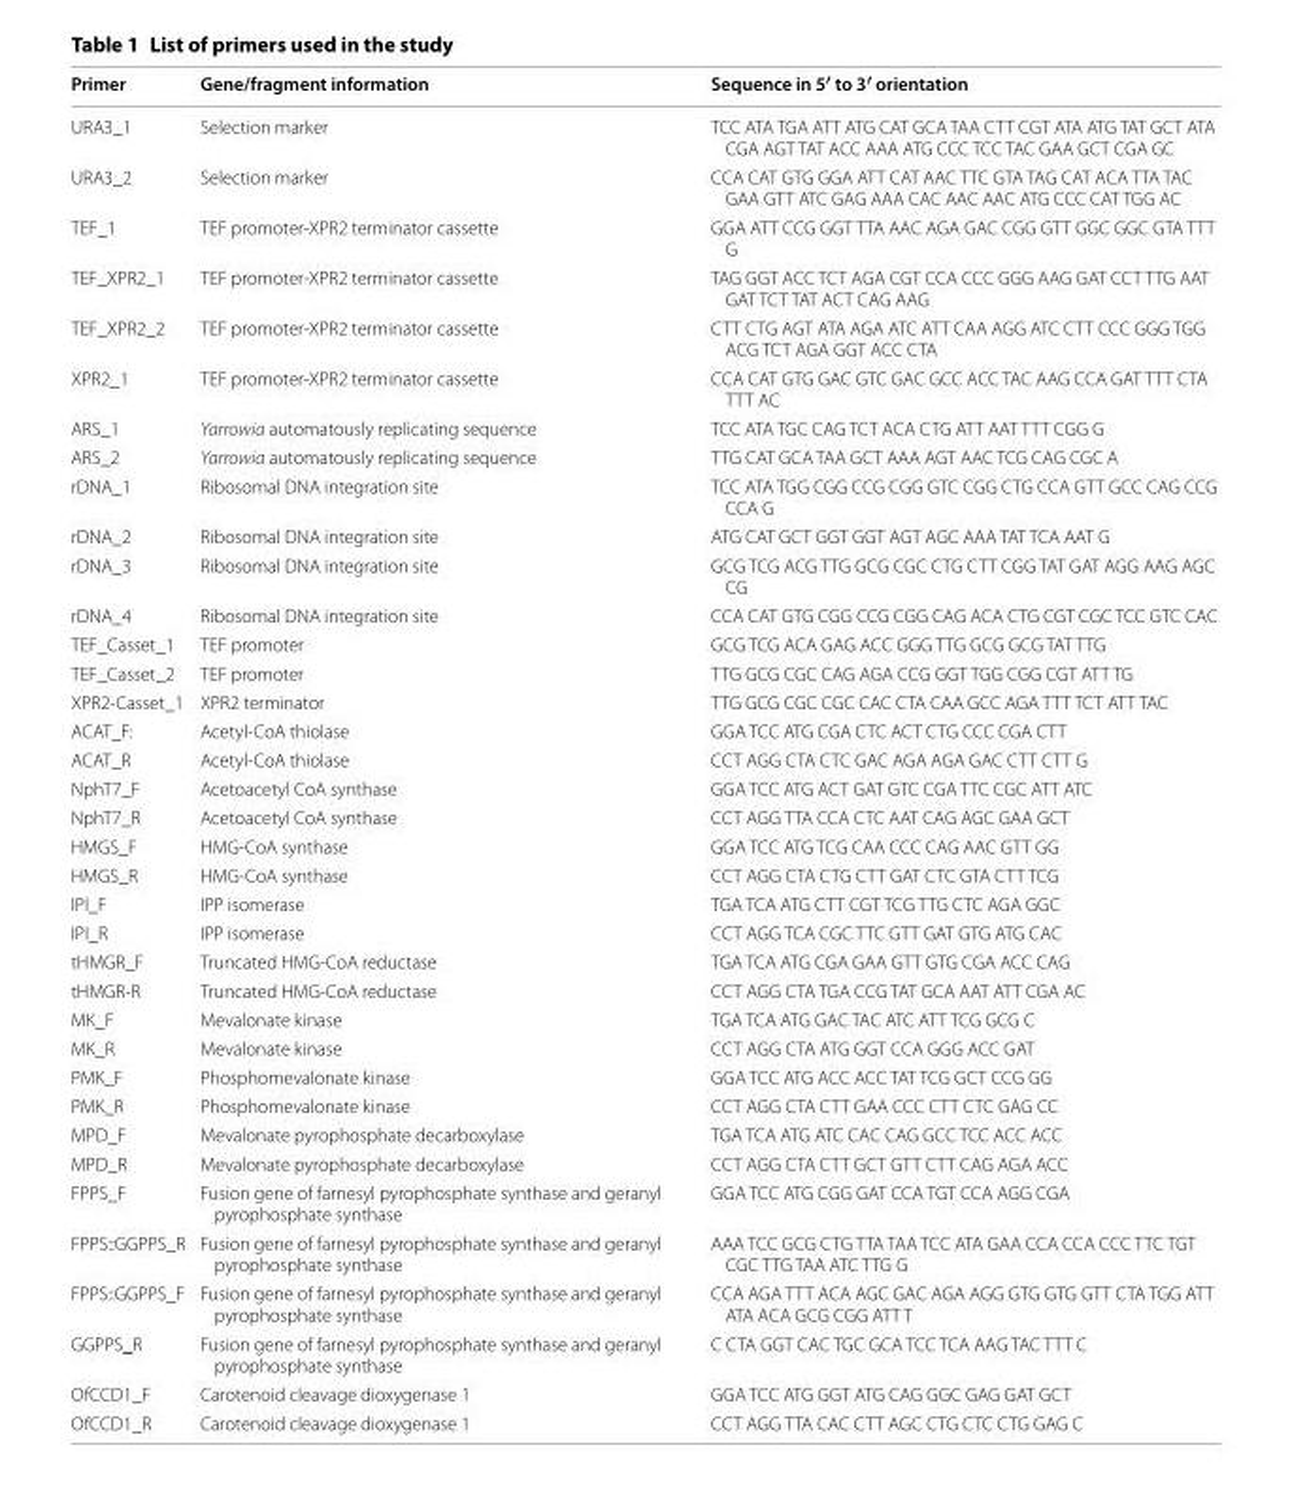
<table><thead><tr><td>Primer</td><td>Gene/fragment information</td><td>Sequence in 5′ to 3′ orientation</td></tr></thead><tbody><tr><td>URA3_1</td><td>Selection marker</td><td>TCC ATA TGA ATT ATG CAT GCA TAA CTT CGT ATA ATG TAT GCT ATA CGA AGT TAT ACC AAA ATG CCC TCC TAC GAA GCT CGA GC</td></tr><tr><td>URA3_2</td><td>Selection marker</td><td>CCA CAT GTG GGA ATT CAT AAC TTC GTA TAG CAT ACA TTA TAC GAA GTT ATC GAG AAA CAC AAC AAC ATG CCC CAT TGG AC</td></tr><tr><td>TEF_1</td><td>TEF promoter-XPR2 terminator cassette</td><td>GGA ATT CCG GGT TTA AAC AGA GAC CGG GTT GGC GGC GTA TTT G</td></tr><tr><td>TEF_XPR2_1</td><td>TEF promoter-XPR2 terminator cassette</td><td>TAG GGT ACC TCT AGA CGT CCA CCC GGG AAG GAT CCT TTG AAT GAT TCT TAT ACT CAG AAG</td></tr><tr><td>TEF_XPR2_2</td><td>TEF promoter-XPR2 terminator cassette</td><td>CTT CTG AGT ATA AGA ATC ATT CAA AGG ATC CTT CCC GGG TGG ACG TCT AGA GGT ACC CTA</td></tr><tr><td>XPR2_1</td><td>TEF promoter-XPR2 terminator cassette</td><td>CCA CAT GTG GAC GTC GAC GCC ACC TAC AAG CCA GAT TTT CTA TTT AC</td></tr><tr><td>ARS_1</td><td>Yarrowia automatously replicating sequence</td><td>TCC ATA TGC CAG TCT ACA CTG ATT AAT TTT CGG G</td></tr><tr><td>ARS_2</td><td>Yarrowia automatously replicating sequence</td><td>TTG CAT GCA TAA GCT AAA AGT AAC TCG CAG CGC A</td></tr><tr><td>rDNA_1</td><td>Ribosomal DNA integration site</td><td>TCC ATA TGG CGG CCG CGG GTC CGG CTG CCA GTT GCC CAG CCG CCA G</td></tr><tr><td>rDNA_2</td><td>Ribosomal DNA integration site</td><td>ATG CAT GCT GGT GGT AGT AGC AAA TAT TCA AAT G</td></tr><tr><td>rDNA_3</td><td>Ribosomal DNA integration site</td><td>GCG TCG ACG TTG GCG CGC CTG CTT CGG TAT GAT AGG AAG AGC CG</td></tr><tr><td>rDNA_4</td><td>Ribosomal DNA integration site</td><td>CCA CAT GTG CGG CCG CGG CAG ACA CTG CGT CGC TCC GTC CAC</td></tr><tr><td>TEF_Casset_1</td><td>TEF promoter</td><td>GCG TCG ACA GAG ACC GGG TTG GCG GCG TAT TTG</td></tr><tr><td>TEF_Casset_2</td><td>TEF promoter</td><td>TTG GCG CGC CAG AGA CCG GGT TGG CGG CGT ATT TG</td></tr><tr><td>XPR2-Casset_1</td><td>XPR2 terminator</td><td>TTG GCG CGC CGC CAC CTA CAA GCC AGA TTT TCT ATT TAC</td></tr><tr><td>ACAT_F:</td><td>Acetyl-CoA thiolase</td><td>GGA TCC ATG CGA CTC ACT CTG CCC CGA CTT</td></tr><tr><td>ACAT_R</td><td>Acetyl-CoA thiolase</td><td>CCT AGG CTA CTC GAC AGA AGA GAC CTT CTT G</td></tr><tr><td>NphT7_F</td><td>Acetoacetyl CoA synthase</td><td>GGA TCC ATG ACT GAT GTC CGA TTC CGC ATT ATC</td></tr><tr><td>NphT7_R</td><td>Acetoacetyl CoA synthase</td><td>CCT AGG TTA CCA CTC AAT CAG AGC GAA GCT</td></tr><tr><td>HMGS_F</td><td>HMG-CoA synthase</td><td>GGA TCC ATG TCG CAA CCC CAG AAC GTT GG</td></tr><tr><td>HMGS_R</td><td>HMG-CoA synthase</td><td>CCT AGG CTA CTG CTT GAT CTC GTA CTT TCG</td></tr><tr><td>IPI_F</td><td>IPP isomerase</td><td>TGA TCA ATG CTT CGT TCG TTG CTC AGA GGC</td></tr><tr><td>IPI_R</td><td>IPP isomerase</td><td>CCT AGG TCA CGC TTC GTT GAT GTG ATG CAC</td></tr><tr><td>tHMGR_F</td><td>Truncated HMG-CoA reductase</td><td>TGA TCA ATG CGA GAA GTT GTG CGA ACC CAG</td></tr><tr><td>tHMGR-R</td><td>Truncated HMG-CoA reductase</td><td>CCT AGG CTA TGA CCG TAT GCA AAT ATT CGA AC</td></tr><tr><td>MK_F</td><td>Mevalonate kinase</td><td>TGA TCA ATG GAC TAC ATC ATT TCG GCG C</td></tr><tr><td>MK_R</td><td>Mevalonate kinase</td><td>CCT AGG CTA ATG GGT CCA GGG ACC GAT</td></tr><tr><td>PMK_F</td><td>Phosphomevalonate kinase</td><td>GGA TCC ATG ACC ACC TAT TCG GCT CCG GG</td></tr><tr><td>PMK_R</td><td>Phosphomevalonate kinase</td><td>CCT AGG CTA CTT GAA CCC CTT CTC GAG CC</td></tr><tr><td>MPD_F</td><td>Mevalonate pyrophosphate decarboxylase</td><td>TGA TCA ATG ATC CAC CAG GCC TCC ACC ACC</td></tr><tr><td>MPD_R</td><td>Mevalonate pyrophosphate decarboxylase</td><td>CCT AGG CTA CTT GCT GTT CTT CAG AGA ACC</td></tr><tr><td>FPPS_F</td><td>Fusion gene of farnesyl pyrophosphate synthase and geranyl pyrophosphate synthase</td><td>GGA TCC ATG CGG GAT CCA TGT CCA AGG CGA</td></tr><tr><td>FPPS::GGPPS_R</td><td>Fusion gene of farnesyl pyrophosphate synthase and geranyl pyrophosphate synthase</td><td>AAA TCC GCG CTG TTA TAA TCC ATA GAA CCA CCA CCC TTC TGT CGC TTG TAA ATC TTG G</td></tr><tr><td>FPPS::GGPPS_F</td><td>Fusion gene of farnesyl pyrophosphate synthase and geranyl pyrophosphate synthase</td><td>CCA AGA TTT ACA AGC GAC AGA AGG GTG GTG GTT CTA TGG ATT ATA ACA GCG CGG ATT T</td></tr><tr><td>GGPPS_R</td><td>Fusion gene of farnesyl pyrophosphate synthase and geranyl pyrophosphate synthase</td><td>C CTA GGT CAC TGC GCA TCC TCA AAG TAC TTT C</td></tr><tr><td>OfCCD1_F</td><td>Carotenoid cleavage dioxygenase 1</td><td>GGA TCC ATG GGT ATG CAG GGC GAG GAT GCT</td></tr><tr><td>OfCCD1_R</td><td>Carotenoid cleavage dioxygenase 1</td><td>CCT AGG TTA CAC CTT AGC CTG CTC CTG GAG C</td></tr></tbody></table>